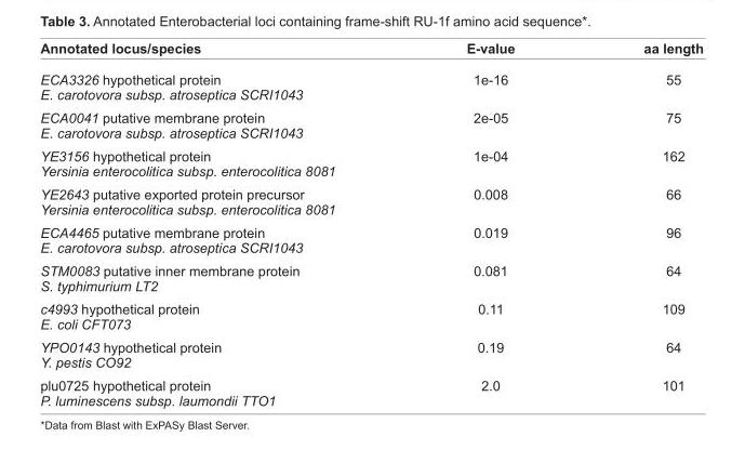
<table><thead><tr><td>Annotated locus/species</td><td>E-value</td><td>aa length</td></tr></thead><tbody><tr><td>ECA3326 hypothetical protein E. carotovora subsp. atroseptica SCRI1043</td><td>1e-16</td><td>55</td></tr><tr><td>ECA0041 putative membrane protein E. carotovora subsp. atroseptica SCRI1043</td><td>2e-05</td><td>75</td></tr><tr><td>YE3156 hypothetical protein Yersinia enterocolitica subsp. enterocolitica 8081</td><td>1e-04</td><td>162</td></tr><tr><td>YE2643 putative exported protein precursor Yersinia enterocolitica subsp. enterocolitica 8081</td><td>0.008</td><td>66</td></tr><tr><td>ECA4465 putative membrane protein E. carotovora subsp. atroseptica SCRI1043</td><td>0.019</td><td>96</td></tr><tr><td>STM0083 putative inner membrane protein S. typhimurium LT2</td><td>0.081</td><td>64</td></tr><tr><td>c4993 hypothetical protein E. coli CFT073</td><td>0.11</td><td>109</td></tr><tr><td>YPO0143 hypothetical protein Y. pestis CO92</td><td>0.19</td><td>64</td></tr><tr><td>plu0725 hypothetical protein P. luminescens subsp. laumondii TTO1</td><td>2.0</td><td>101</td></tr></tbody></table>